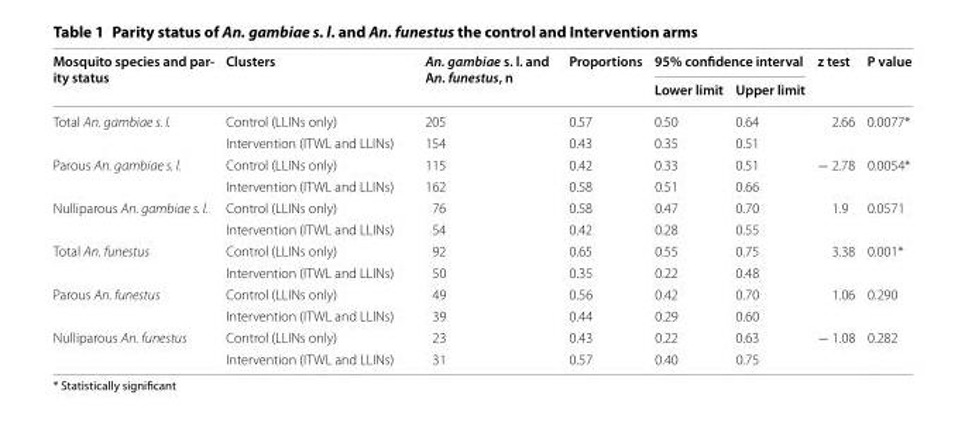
<table><thead><tr><td rowspan="2">Mosquito species and par- ity status</td><td rowspan="2">Clusters</td><td rowspan="2">An. gambiae s. l. and An. funestus, n</td><td rowspan="2">Proportions</td><td colspan="2">95% confidence interval</td><td rowspan="2">z test</td><td rowspan="2">P value</td></tr><tr><td>Lower limit</td><td>Upper limit</td></tr></thead><tbody><tr><td rowspan="2">Total An. gambiae s. l.</td><td>Control (LLINs only)</td><td>205</td><td>0.57</td><td>0.50</td><td>0.64</td><td rowspan="2">2.66</td><td rowspan="2">0.0077*</td></tr><tr><td>Intervention (ITWL and LLINs)</td><td>154</td><td>0.43</td><td>0.35</td><td>0.51</td></tr><tr><td rowspan="2">Parous An. gambiae s. l.</td><td>Control (LLINs only)</td><td>115</td><td>0.42</td><td>0.33</td><td>0.51</td><td rowspan="2">− 2.78</td><td rowspan="2">0.0054*</td></tr><tr><td>Intervention (ITWL and LLINs)</td><td>162</td><td>0.58</td><td>0.51</td><td>0.66</td></tr><tr><td rowspan="2">Nulliparous An. gambiae s. l.</td><td>Control (LLINs only)</td><td>76</td><td>0.58</td><td>0.47</td><td>0.70</td><td rowspan="2">1.9</td><td rowspan="2">0.0571</td></tr><tr><td>Intervention (ITWL and LLINs)</td><td>54</td><td>0.42</td><td>0.28</td><td>0.55</td></tr><tr><td rowspan="2">Total An. funestus</td><td>Control (LLINs only)</td><td>92</td><td>0.65</td><td>0.55</td><td>0.75</td><td rowspan="2">3.38</td><td rowspan="2">0.001*</td></tr><tr><td>Intervention (ITWL and LLINs)</td><td>50</td><td>0.35</td><td>0.22</td><td>0.48</td></tr><tr><td rowspan="2">Parous An. funestus</td><td>Control (LLINs only)</td><td>49</td><td>0.56</td><td>0.42</td><td>0.70</td><td rowspan="2">1.06</td><td rowspan="2">0.290</td></tr><tr><td>Intervention (ITWL and LLINs)</td><td>39</td><td>0.44</td><td>0.29</td><td>0.60</td></tr><tr><td rowspan="2">Nulliparous An. funestus</td><td>Control (LLINs only)</td><td>23</td><td>0.43</td><td>0.22</td><td>0.63</td><td rowspan="2">− 1.08</td><td rowspan="2">0.282</td></tr><tr><td>Intervention (ITWL and LLINs)</td><td>31</td><td>0.57</td><td>0.40</td><td>0.75</td></tr></tbody></table>